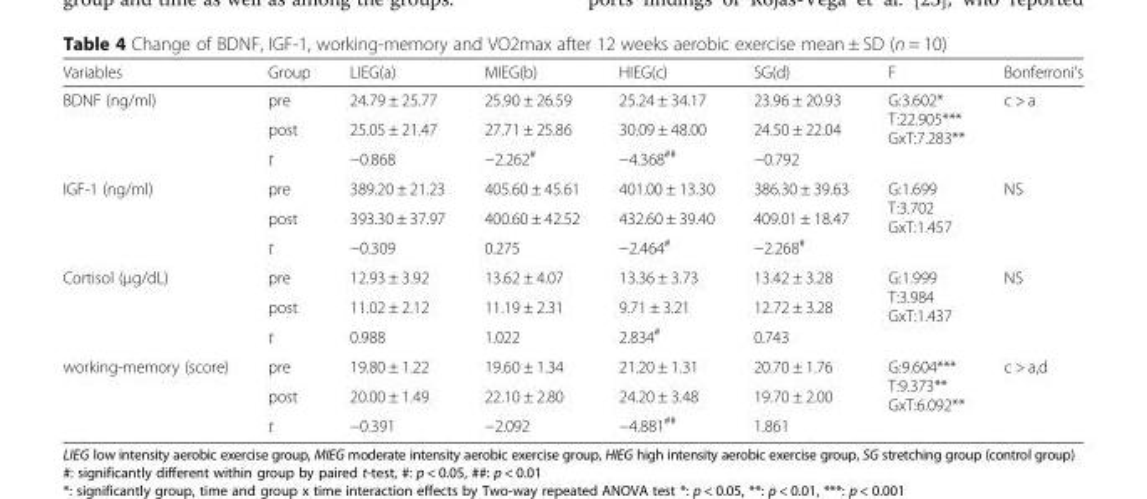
<table><thead><tr><td>Variables</td><td>Group</td><td>LIEG(a)</td><td>MIEG(b)</td><td>HIEG(c)</td><td>SG(d)</td><td>F</td><td>Bonferroni’s</td></tr></thead><tbody><tr><td rowspan="3">BDNF (ng/ml)</td><td>pre</td><td>24.79 ± 25.77</td><td>25.90 ± 26.59</td><td>25.24 ± 34.17</td><td>23.96 ± 20.93</td><td rowspan="3">G:3.602* T:22.905*** GxT:7.283**</td><td rowspan="3">c &gt; a</td></tr><tr><td>post</td><td>25.05 ± 21.47</td><td>27.71 ± 25.86</td><td>30.09 ± 48.00</td><td>24.50 ± 22.04</td></tr><tr><td>t</td><td>−0.868</td><td>−2.262<sup>#</sup></td><td>−4.368<sup>##</sup></td><td>−0.792</td></tr><tr><td rowspan="3">IGF-1 (ng/ml)</td><td>pre</td><td>389.20 ± 21.23</td><td>405.60 ± 45.61</td><td>401.00 ± 13.30</td><td>386.30 ± 39.63</td><td rowspan="3">G:1.699 T:3.702 GxT:1.457</td><td rowspan="3">NS</td></tr><tr><td>post</td><td>393.30 ± 37.97</td><td>400.60 ± 42.52</td><td>432.60 ± 39.40</td><td>409.01 ± 18.47</td></tr><tr><td>t</td><td>−0.309</td><td>0.275</td><td>−2.464<sup>#</sup></td><td>−2.268<sup>#</sup></td></tr><tr><td rowspan="3">Cortisol (μg/dL)</td><td>pre</td><td>12.93 ± 3.92</td><td>13.62 ± 4.07</td><td>13.36 ± 3.73</td><td>13.42 ± 3.28</td><td rowspan="3">G:1.999 T:3.984 GxT:1.437</td><td rowspan="3">NS</td></tr><tr><td>post</td><td>11.02 ± 2.12</td><td>11.19 ± 2.31</td><td>9.71 ± 3.21</td><td>12.72 ± 3.28</td></tr><tr><td>t</td><td>0.988</td><td>1.022</td><td>2.834<sup>#</sup></td><td>0.743</td></tr><tr><td rowspan="3">working-memory (score)</td><td>pre</td><td>19.80 ± 1.22</td><td>19.60 ± 1.34</td><td>21.20 ± 1.31</td><td>20.70 ± 1.76</td><td rowspan="3">G:9.604*** T:9.373** GxT:6.092**</td><td rowspan="3">c &gt; a,d</td></tr><tr><td>post</td><td>20.00 ± 1.49</td><td>22.10 ± 2.80</td><td>24.20 ± 3.48</td><td>19.70 ± 2.00</td></tr><tr><td>t</td><td>−0.391</td><td>−2.092</td><td>−4.881<sup>##</sup></td><td>1.861</td></tr></tbody></table>